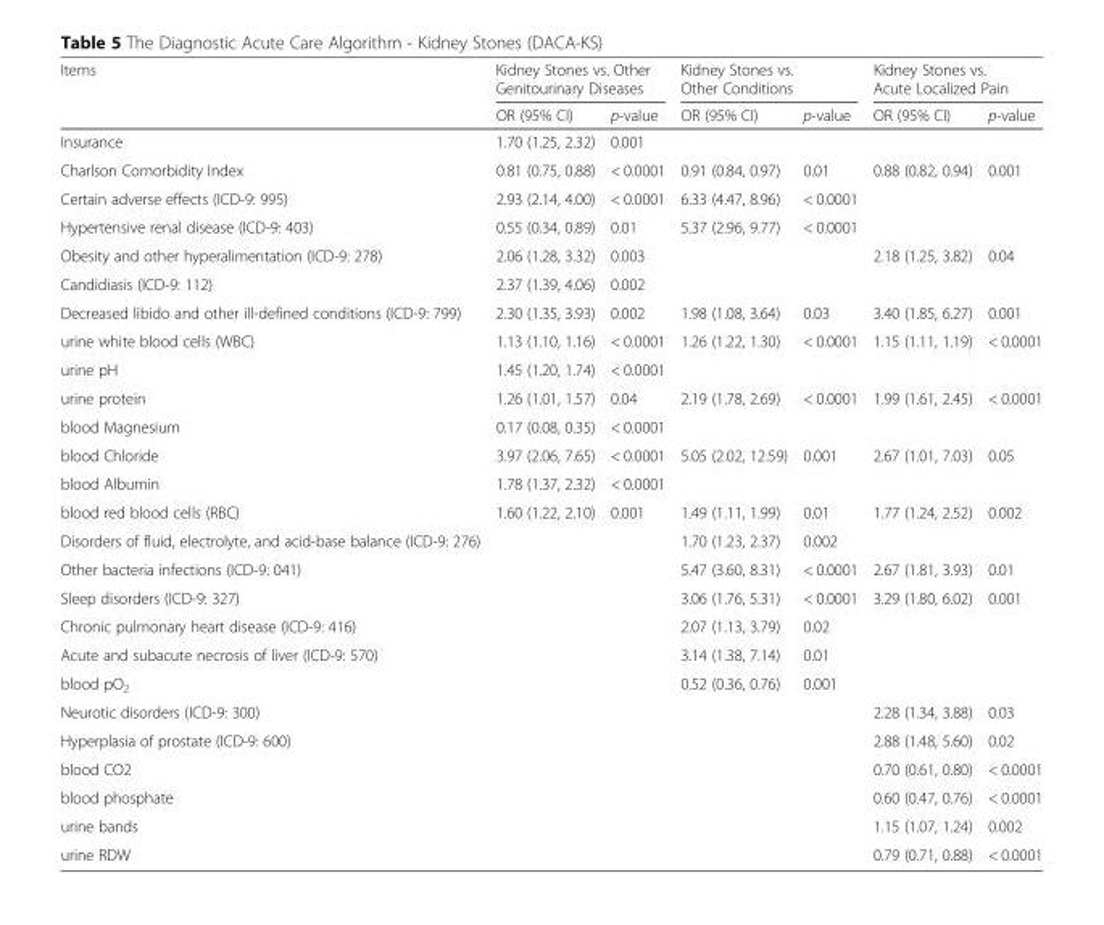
<table><thead><tr><td rowspan="2">Items</td><td colspan="2">Kidney Stones vs. Other Genitourinary Diseases</td><td colspan="2">Kidney Stones vs. Other Conditions</td><td colspan="2">Kidney Stones vs. Acute Localized Pain</td></tr><tr><td>OR (95% CI)</td><td>p-value</td><td>OR (95% CI)</td><td>p-value</td><td>OR (95% CI)</td><td>p-value</td></tr></thead><tbody><tr><td>Insurance</td><td>1.70 (1.25, 2.32)</td><td>0.001</td><td></td><td></td><td></td><td></td></tr><tr><td>Charlson Comorbidity Index</td><td>0.81 (0.75, 0.88)</td><td>&lt; 0.0001</td><td>0.91 (0.84, 0.97)</td><td>0.01</td><td>0.88 (0.82, 0.94)</td><td>0.001</td></tr><tr><td>Certain adverse effects (ICD-9: 995)</td><td>2.93 (2.14, 4.00)</td><td>&lt; 0.0001</td><td>6.33 (4.47, 8.96)</td><td>&lt; 0.0001</td><td></td><td></td></tr><tr><td>Hypertensive renal disease (ICD-9: 403)</td><td>0.55 (0.34, 0.89)</td><td>0.01</td><td>5.37 (2.96, 9.77)</td><td>&lt; 0.0001</td><td></td><td></td></tr><tr><td>Obesity and other hyperalimentation (ICD-9: 278)</td><td>2.06 (1.28, 3.32)</td><td>0.003</td><td></td><td></td><td>2.18 (1.25, 3.82)</td><td>0.04</td></tr><tr><td>Candidiasis (ICD-9: 112)</td><td>2.37 (1.39, 4.06)</td><td>0.002</td><td></td><td></td><td></td><td></td></tr><tr><td>Decreased libido and other ill-defined conditions (ICD-9: 799)</td><td>2.30 (1.35, 3.93)</td><td>0.002</td><td>1.98 (1.08, 3.64)</td><td>0.03</td><td>3.40 (1.85, 6.27)</td><td>0.001</td></tr><tr><td>urine white blood cells (WBC)</td><td>1.13 (1.10, 1.16)</td><td>&lt; 0.0001</td><td>1.26 (1.22, 1.30)</td><td>&lt; 0.0001</td><td>1.15 (1.11, 1.19)</td><td>&lt; 0.0001</td></tr><tr><td>urine pH</td><td>1.45 (1.20, 1.74)</td><td>&lt; 0.0001</td><td></td><td></td><td></td><td></td></tr><tr><td>urine protein</td><td>1.26 (1.01, 1.57)</td><td>0.04</td><td>2.19 (1.78, 2.69)</td><td>&lt; 0.0001</td><td>1.99 (1.61, 2.45)</td><td>&lt; 0.0001</td></tr><tr><td>blood Magnesium</td><td>0.17 (0.08, 0.35)</td><td>&lt; 0.0001</td><td></td><td></td><td></td><td></td></tr><tr><td>blood Chloride</td><td>3.97 (2.06, 7.65)</td><td>&lt; 0.0001</td><td>5.05 (2.02, 12.59)</td><td>0.001</td><td>2.67 (1.01, 7.03)</td><td>0.05</td></tr><tr><td>blood Albumin</td><td>1.78 (1.37, 2.32)</td><td>&lt; 0.0001</td><td></td><td></td><td></td><td></td></tr><tr><td>blood red blood cells (RBC)</td><td>1.60 (1.22, 2.10)</td><td>0.001</td><td>1.49 (1.11, 1.99)</td><td>0.01</td><td>1.77 (1.24, 2.52)</td><td>0.002</td></tr><tr><td>Disorders of fluid, electrolyte, and acid-base balance (ICD-9: 276)</td><td></td><td></td><td>1.70 (1.23, 2.37)</td><td>0.002</td><td></td><td></td></tr><tr><td>Other bacteria infections (ICD-9: 041)</td><td></td><td></td><td>5.47 (3.60, 8.31)</td><td>&lt; 0.0001</td><td>2.67 (1.81, 3.93)</td><td>0.01</td></tr><tr><td>Sleep disorders (ICD-9: 327)</td><td></td><td></td><td>3.06 (1.76, 5.31)</td><td>&lt; 0.0001</td><td>3.29 (1.80, 6.02)</td><td>0.001</td></tr><tr><td>Chronic pulmonary heart disease (ICD-9: 416)</td><td></td><td></td><td>2.07 (1.13, 3.79)</td><td>0.02</td><td></td><td></td></tr><tr><td>Acute and subacute necrosis of liver (ICD-9: 570)</td><td></td><td></td><td>3.14 (1.38, 7.14)</td><td>0.01</td><td></td><td></td></tr><tr><td>blood pO<sub>2</sub></td><td></td><td></td><td>0.52 (0.36, 0.76)</td><td>0.001</td><td></td><td></td></tr><tr><td>Neurotic disorders (ICD-9: 300)</td><td></td><td></td><td></td><td></td><td>2.28 (1.34, 3.88)</td><td>0.03</td></tr><tr><td>Hyperplasia of prostate (ICD-9: 600)</td><td></td><td></td><td></td><td></td><td>2.88 (1.48, 5.60)</td><td>0.02</td></tr><tr><td>blood CO2</td><td></td><td></td><td></td><td></td><td>0.70 (0.61, 0.80)</td><td>&lt; 0.0001</td></tr><tr><td>blood phosphate</td><td></td><td></td><td></td><td></td><td>0.60 (0.47, 0.76)</td><td>&lt; 0.0001</td></tr><tr><td>urine bands</td><td></td><td></td><td></td><td></td><td>1.15 (1.07, 1.24)</td><td>0.002</td></tr><tr><td>urine RDW</td><td></td><td></td><td></td><td></td><td>0.79 (0.71, 0.88)</td><td>&lt; 0.0001</td></tr></tbody></table>